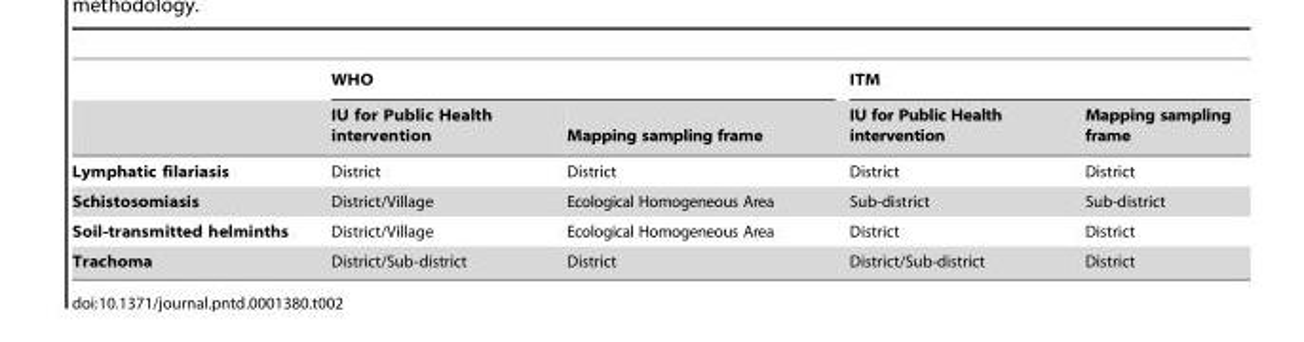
<table><thead><tr><td rowspan="2"></td><td colspan="2">WHO</td><td colspan="2">ITM</td></tr><tr><td>IU for Public Health intervention</td><td>Mapping sampling frame</td><td>IU for Public Health intervention</td><td>Mapping sampling frame</td></tr></thead><tbody><tr><td>Lymphatic filariasis</td><td>District</td><td>District</td><td>District</td><td>District</td></tr><tr><td>Schistosomiasis</td><td>District/Village</td><td>Ecological Homogeneous Area</td><td>Sub-district</td><td>Sub-district</td></tr><tr><td>Soil-transmitted helminths</td><td>District/Village</td><td>Ecological Homogeneous Area</td><td>District</td><td>District</td></tr><tr><td>Trachoma</td><td>District/Sub-district</td><td>District</td><td>District/Sub-district</td><td>District</td></tr></tbody></table>